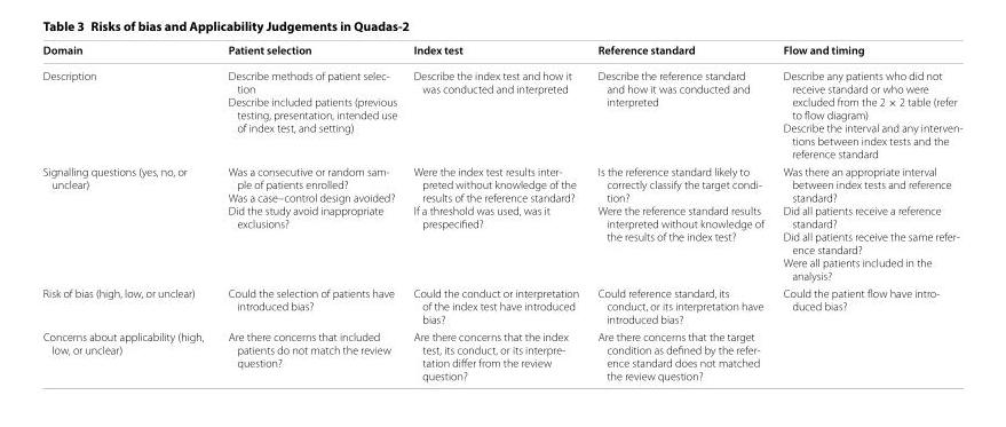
<table><thead><tr><td>Domain</td><td>Patient selection</td><td>Index test</td><td>Reference standard</td><td>Flow and timing</td></tr></thead><tbody><tr><td>Description</td><td>Describe methods of patient selec- tion Describe included patients (previous testing, presentation, intended use of index test, and setting)</td><td>Describe the index test and how it was conducted and interpreted</td><td>Describe the reference standard and how it was conducted and interpreted</td><td>Describe any patients who did not receive standard or who were excluded from the 2 × 2 table (refer to flow diagram) Describe the interval and any interven- tions between index tests and the reference standard</td></tr><tr><td>Signalling questions (yes, no, or unclear)</td><td>Was a consecutive or random sam- ple of patients enrolled? Was a case–control design avoided? Did the study avoid inappropriate exclusions?</td><td>Were the index test results inter- preted without knowledge of the results of the reference standard? If a threshold was used, was it prespecified?</td><td>Is the reference standard likely to correctly classify the target condi- tion? Were the reference standard results interpreted without knowledge of the results of the index test?</td><td>Was there an appropriate interval between index tests and reference standard? Did all patients receive a reference standard? Did all patients receive the same refer- ence standard? Were all patients included in the analysis?</td></tr><tr><td>Risk of bias (high, low, or unclear)</td><td>Could the selection of patients have introduced bias?</td><td>Could the conduct or interpretation of the index test have introduced bias?</td><td>Could reference standard, its conduct, or its interpretation have introduced bias?</td><td>Could the patient flow have intro- duced bias?</td></tr><tr><td>Concerns about applicability (high, low, or unclear)</td><td>Are there concerns that included patients do not match the review question?</td><td>Are there concerns that the index test, its conduct, or its interpre- tation differ from the review question?</td><td>Are there concerns that the target condition as defined by the refer- ence standard does not matched the review question?</td><td></td></tr></tbody></table>